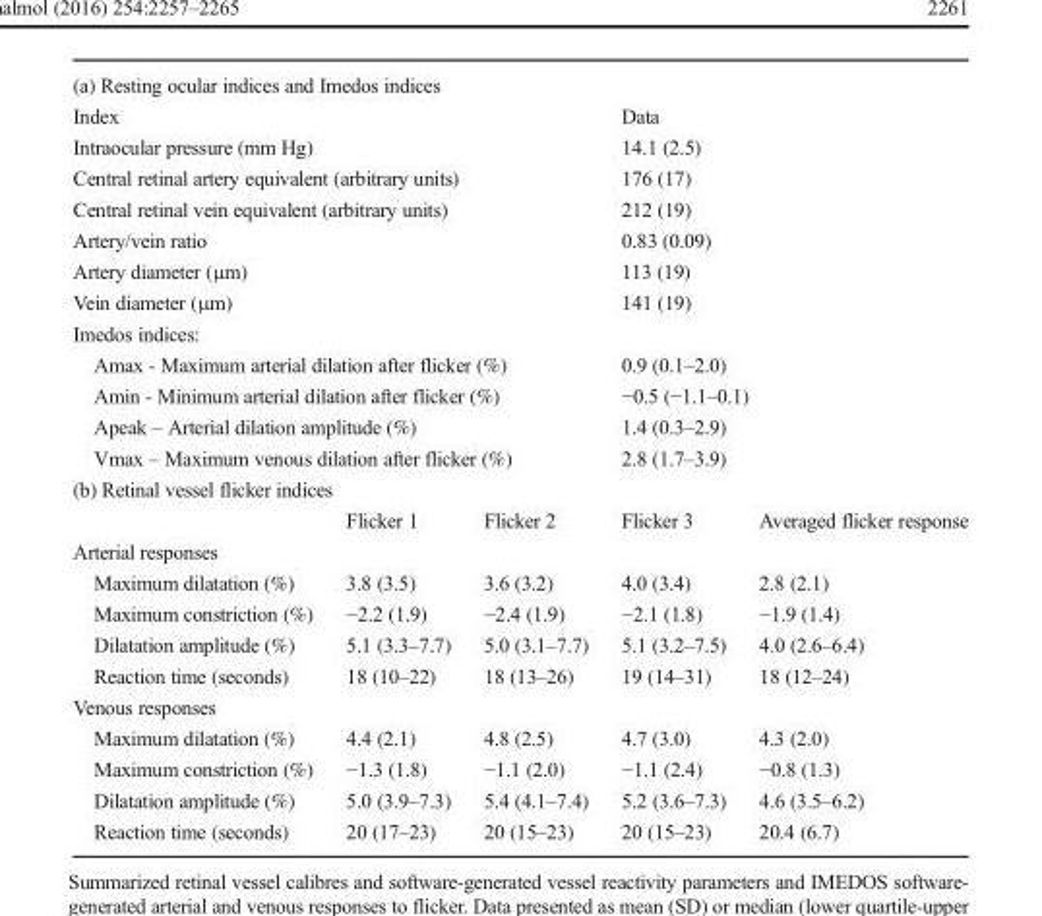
<table><tbody><tr><td colspan="5">(a) Resting ocular indices and Imedos indices</td></tr><tr><td colspan="3">Index</td><td colspan="2">Data</td></tr><tr><td colspan="3">Intraocular pressure (mm Hg)</td><td colspan="2">14.1 (2.5)</td></tr><tr><td colspan="3">Central retinal artery equivalent (arbitrary units)</td><td colspan="2">176 (17)</td></tr><tr><td colspan="3">Central retinal vein equivalent (arbitrary units)</td><td colspan="2">212 (19)</td></tr><tr><td colspan="3">Artery/vein ratio</td><td colspan="2">0.83 (0.09)</td></tr><tr><td colspan="3">Artery diameter (μm)</td><td colspan="2">113 (19)</td></tr><tr><td colspan="3">Vein diameter (μm)</td><td colspan="2">141 (19)</td></tr><tr><td colspan="5">Imedos indices:</td></tr><tr><td colspan="3">Amax - Maximum arterial dilation after flicker (%)</td><td colspan="2">0.9 (0.1–2.0)</td></tr><tr><td colspan="3">Amin - Minimum arterial dilation after flicker (%)</td><td colspan="2">−0.5 (−1.1–0.1)</td></tr><tr><td colspan="3">Apeak – Arterial dilation amplitude (%)</td><td colspan="2">1.4 (0.3–2.9)</td></tr><tr><td colspan="3">Vmax – Maximum venous dilation after flicker (%)</td><td colspan="2">2.8 (1.7–3.9)</td></tr><tr><td colspan="5">(b) Retinal vessel flicker indices</td></tr><tr><td></td><td>Flicker 1</td><td>Flicker 2</td><td>Flicker 3</td><td>Averaged flicker response</td></tr><tr><td colspan="5">Arterial responses</td></tr><tr><td>Maximum dilatation (%)</td><td>3.8 (3.5)</td><td>3.6 (3.2)</td><td>4.0 (3.4)</td><td>2.8 (2.1)</td></tr><tr><td>Maximum constriction (%)</td><td>−2.2 (1.9)</td><td>−2.4 (1.9)</td><td>−2.1 (1.8)</td><td>−1.9 (1.4)</td></tr><tr><td>Dilatation amplitude (%)</td><td>5.1 (3.3–7.7)</td><td>5.0 (3.1–7.7)</td><td>5.1 (3.2–7.5)</td><td>4.0 (2.6–6.4)</td></tr><tr><td>Reaction time (seconds)</td><td>18 (10–22)</td><td>18 (13–26)</td><td>19 (14–31)</td><td>18 (12–24)</td></tr><tr><td colspan="5">Venous responses</td></tr><tr><td>Maximum dilatation (%)</td><td>4.4 (2.1)</td><td>4.8 (2.5)</td><td>4.7 (3.0)</td><td>4.3 (2.0)</td></tr><tr><td>Maximum constriction (%)</td><td>−1.3 (1.8)</td><td>−1.1 (2.0)</td><td>−1.1 (2.4)</td><td>−0.8 (1.3)</td></tr><tr><td>Dilatation amplitude (%)</td><td>5.0 (3.9–7.3)</td><td>5.4 (4.1–7.4)</td><td>5.2 (3.6–7.3)</td><td>4.6 (3.5–6.2)</td></tr><tr><td>Reaction time (seconds)</td><td>20 (17–23)</td><td>20 (15–23)</td><td>20 (15–23)</td><td>20.4 (6.7)</td></tr></tbody></table>